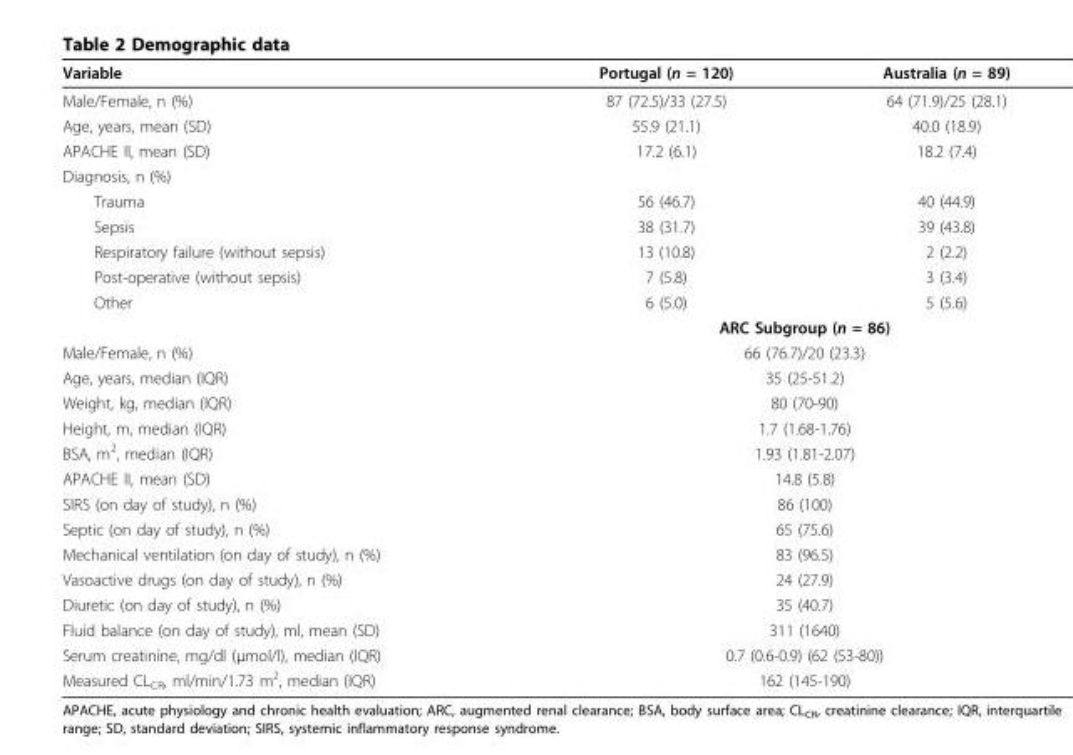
<table><thead><tr><td>Variable</td><td>Portugal (n = 120)</td><td>Australia (n = 89)</td></tr></thead><tbody><tr><td>Male/Female, n (%)</td><td>87 (72.5)/33 (27.5)</td><td>64 (71.9)/25 (28.1)</td></tr><tr><td>Age, years, mean (SD)</td><td>55.9 (21.1)</td><td>40.0 (18.9)</td></tr><tr><td>APACHE II, mean (SD)</td><td>17.2 (6.1)</td><td>18.2 (7.4)</td></tr><tr><td colspan="3">Diagnosis, n (%)</td></tr><tr><td>Trauma</td><td>56 (46.7)</td><td>40 (44.9)</td></tr><tr><td>Sepsis</td><td>38 (31.7)</td><td>39 (43.8)</td></tr><tr><td>Respiratory failure (without sepsis)</td><td>13 (10.8)</td><td>2 (2.2)</td></tr><tr><td>Post-operative (without sepsis)</td><td>7 (5.8)</td><td>3 (3.4)</td></tr><tr><td rowspan="2">Other</td><td>6 (5.0)</td><td>5 (5.6)</td></tr><tr><td colspan="2">ARC Subgroup (n = 86)</td></tr><tr><td>Male/Female, n (%)</td><td colspan="2">66 (76.7)/20 (23.3)</td></tr><tr><td>Age, years, median (IQR)</td><td colspan="2">35 (25-51.2)</td></tr><tr><td>Weight, kg, median (IQR)</td><td colspan="2">80 (70-90)</td></tr><tr><td>Height, m, median (IQR)</td><td colspan="2">1.7 (1.68-1.76)</td></tr><tr><td>BSA, m<sup>2</sup>, median (IQR)</td><td colspan="2">1.93 (1.81-2.07)</td></tr><tr><td>APACHE II, mean (SD)</td><td colspan="2">14.8 (5.8)</td></tr><tr><td>SIRS (on day of study), n (%)</td><td colspan="2">86 (100)</td></tr><tr><td>Septic (on day of study), n (%)</td><td colspan="2">65 (75.6)</td></tr><tr><td>Mechanical ventilation (on day of study), n (%)</td><td colspan="2">83 (96.5)</td></tr><tr><td>Vasoactive drugs (on day of study), n (%)</td><td colspan="2">24 (27.9)</td></tr><tr><td>Diuretic (on day of study), n (%)</td><td colspan="2">35 (40.7)</td></tr><tr><td>Fluid balance (on day of study), ml, mean (SD)</td><td colspan="2">311 (1640)</td></tr><tr><td>Serum creatinine, mg/dl (μmol/l), median (IQR)</td><td colspan="2">0.7 (0.6-0.9) (62 (53-80))</td></tr><tr><td>Measured CL<sub>CR</sub>, ml/min/1.73 m<sup>2</sup>, median (IQR)</td><td colspan="2">162 (145-190)</td></tr></tbody></table>